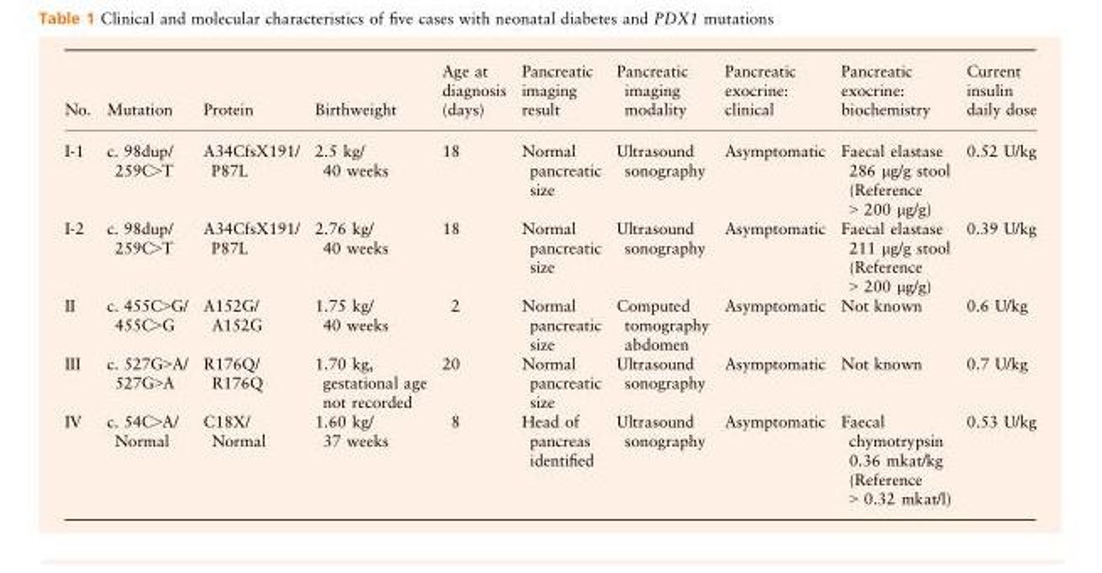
<table><thead><tr><td>No.</td><td>Mutation</td><td>Protein</td><td>Birthweight</td><td>Age at diagnosis (days)</td><td>Pancreatic imaging result</td><td>Pancreatic imaging modality</td><td>Pancreatic exocrine: clinical</td><td>Pancreatic exocrine: biochemistry</td><td>Current insulin daily dose</td></tr></thead><tbody><tr><td>I-1</td><td>c. 98dup/ 259C&gt;T</td><td>A34CfsX191/ P87L</td><td>2.5 kg/ 40 weeks</td><td>18</td><td>Normal pancreatic size</td><td>Ultrasound sonography</td><td>Asymptomatic</td><td>Faecal elastase 286 μg/g stool (Reference &gt; 200 μg/g)</td><td>0.52 U/kg</td></tr><tr><td>I-2</td><td>c. 98dup/ 259C&gt;T</td><td>A34CfsX191/ P87L</td><td>2.76 kg/ 40 weeks</td><td>18</td><td>Normal pancreatic size</td><td>Ultrasound sonography</td><td>Asymptomatic</td><td>Faecal elastase 211 μg/g stool (Reference &gt; 200 μg/g)</td><td>0.39 U/kg</td></tr><tr><td>II</td><td>c. 455C&gt;G/ 455C&gt;G</td><td>A152G/ A152G</td><td>1.75 kg/ 40 weeks</td><td>2</td><td>Normal pancreatic size</td><td>Computed tomography abdomen</td><td>Asymptomatic</td><td>Not known</td><td>0.6 U/kg</td></tr><tr><td>III</td><td>c. 527G&gt;A/ 527G&gt;A</td><td>R176Q/ R176Q</td><td>1.70 kg, gestational age not recorded</td><td>20</td><td>Normal pancreatic size</td><td>Ultrasound sonography</td><td>Asymptomatic</td><td>Not known</td><td>0.7 U/kg</td></tr><tr><td>IV</td><td>c. 54C&gt;A/ Normal</td><td>C18X/ Normal</td><td>1.60 kg/ 37 weeks</td><td>8</td><td>Head of pancreas identified</td><td>Ultrasound sonography</td><td>Asymptomatic</td><td>Faecal chymotrypsin 0.36 mkat/kg (Reference &gt; 0.32 mkat/l)</td><td>0.53 U/kg</td></tr></tbody></table>